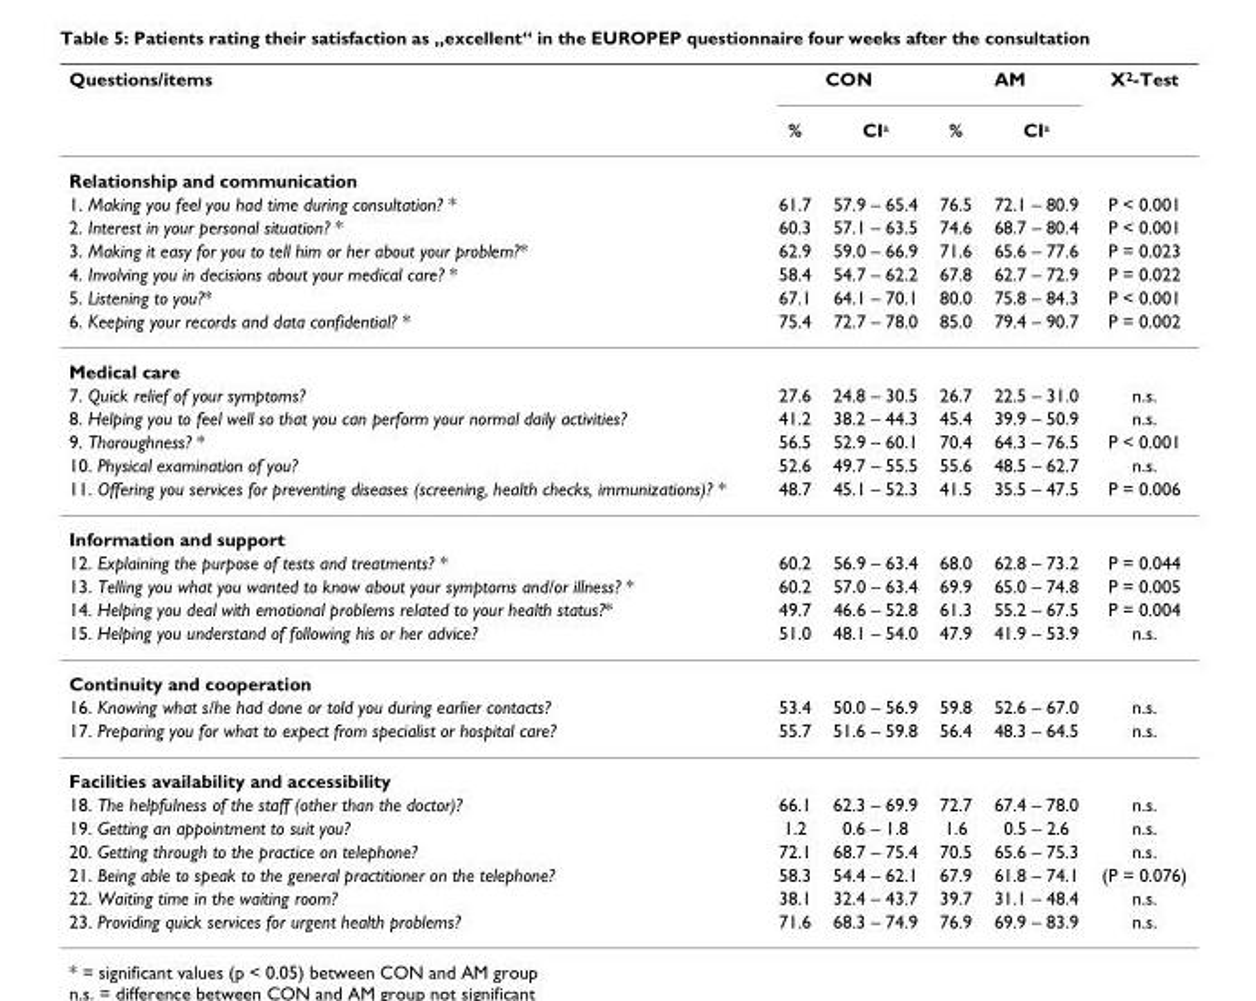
<table><thead><tr><td rowspan="2">Questions/items</td><td colspan="2">CON</td><td colspan="2">AM</td><td rowspan="2">X<sup>2</sup>-Test</td></tr><tr><td>%</td><td>CI<sup>a</sup></td><td>%</td><td>CI<sup>a</sup></td></tr></thead><tbody><tr><td colspan="6">Relationship and communication</td></tr><tr><td>1. Making you feel you had time during consultation? *</td><td>61.7</td><td>57.9 – 65.4</td><td>76.5</td><td>72.1 – 80.9</td><td>P &lt; 0.001</td></tr><tr><td>2. Interest in your personal situation? *</td><td>60.3</td><td>57.1 – 63.5</td><td>74.6</td><td>68.7 – 80.4</td><td>P &lt; 0.001</td></tr><tr><td>3. Making it easy for you to tell him or her about your problem?*</td><td>62.9</td><td>59.0 – 66.9</td><td>71.6</td><td>65.6 – 77.6</td><td>P = 0.023</td></tr><tr><td>4. Involving you in decisions about your medical care? *</td><td>58.4</td><td>54.7 – 62.2</td><td>67.8</td><td>62.7 – 72.9</td><td>P = 0.022</td></tr><tr><td>5. Listening to you?*</td><td>67.1</td><td>64.1 – 70.1</td><td>80.0</td><td>75.8 – 84.3</td><td>P &lt; 0.001</td></tr><tr><td>6. Keeping your records and data confidential? *</td><td>75.4</td><td>72.7 – 78.0</td><td>85.0</td><td>79.4 – 90.7</td><td>P = 0.002</td></tr><tr><td colspan="6">Medical care</td></tr><tr><td>7. Quick relief of your symptoms?</td><td>27.6</td><td>24.8 – 30.5</td><td>26.7</td><td>22.5 – 31.0</td><td>n.s.</td></tr><tr><td>8. Helping you to feel well so that you can perform your normal daily activities?</td><td>41.2</td><td>38.2 – 44.3</td><td>45.4</td><td>39.9 – 50.9</td><td>n.s.</td></tr><tr><td>9. Thoroughness? *</td><td>56.5</td><td>52.9 – 60.1</td><td>70.4</td><td>64.3 – 76.5</td><td>P &lt; 0.001</td></tr><tr><td>10. Physical examination of you?</td><td>52.6</td><td>49.7 – 55.5</td><td>55.6</td><td>48.5 – 62.7</td><td>n.s.</td></tr><tr><td>11. Offering you services for preventing diseases (screening, health checks, immunizations)? *</td><td>48.7</td><td>45.1 – 52.3</td><td>41.5</td><td>35.5 – 47.5</td><td>P = 0.006</td></tr><tr><td colspan="6">Information and support</td></tr><tr><td>12. Explaining the purpose of tests and treatments? *</td><td>60.2</td><td>56.9 – 63.4</td><td>68.0</td><td>62.8 – 73.2</td><td>P = 0.044</td></tr><tr><td>13. Telling you what you wanted to know about your symptoms and/or illness? *</td><td>60.2</td><td>57.0 – 63.4</td><td>69.9</td><td>65.0 – 74.8</td><td>P = 0.005</td></tr><tr><td>14. Helping you deal with emotional problems related to your health status?*</td><td>49.7</td><td>46.6 – 52.8</td><td>61.3</td><td>55.2 – 67.5</td><td>P = 0.004</td></tr><tr><td>15. Helping you understand of following his or her advice?</td><td>51.0</td><td>48.1 – 54.0</td><td>47.9</td><td>41.9 – 53.9</td><td>n.s.</td></tr><tr><td colspan="6">Continuity and cooperation</td></tr><tr><td>16. Knowing what s/he had done or told you during earlier contacts?</td><td>53.4</td><td>50.0 – 56.9</td><td>59.8</td><td>52.6 – 67.0</td><td>n.s.</td></tr><tr><td>17. Preparing you for what to expect from specialist or hospital care?</td><td>55.7</td><td>51.6 – 59.8</td><td>56.4</td><td>48.3 – 64.5</td><td>n.s.</td></tr><tr><td colspan="6">Facilities availability and accessibility</td></tr><tr><td>18. The helpfulness of the staff (other than the doctor)?</td><td>66.1</td><td>62.3 – 69.9</td><td>72.7</td><td>67.4 – 78.0</td><td>n.s.</td></tr><tr><td>19. Getting an appointment to suit you?</td><td>1.2</td><td>0.6 – 1.8</td><td>1.6</td><td>0.5 – 2.6</td><td>n.s.</td></tr><tr><td>20. Getting through to the practice on telephone?</td><td>72.1</td><td>68.7 – 75.4</td><td>70.5</td><td>65.6 – 75.3</td><td>n.s.</td></tr><tr><td>21. Being able to speak to the general practitioner on the telephone?</td><td>58.3</td><td>54.4 – 62.1</td><td>67.9</td><td>61.8 – 74.1</td><td>(P = 0.076)</td></tr><tr><td>22. Waiting time in the waiting room?</td><td>38.1</td><td>32.4 – 43.7</td><td>39.7</td><td>31.1 – 48.4</td><td>n.s.</td></tr><tr><td>23. Providing quick services for urgent health problems?</td><td>71.6</td><td>68.3 – 74.9</td><td>76.9</td><td>69.9 – 83.9</td><td>n.s.</td></tr></tbody></table>